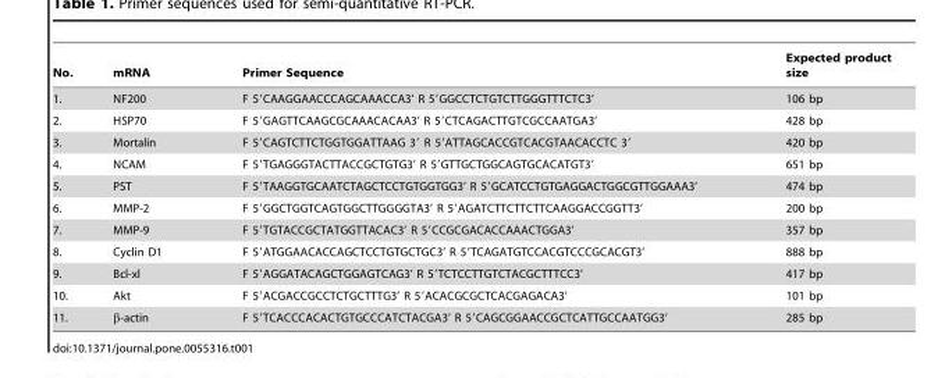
<table><thead><tr><td>No.</td><td>mRNA</td><td>Primer Sequence</td><td>Expected product size</td></tr></thead><tbody><tr><td>1.</td><td>NF200</td><td>F 5′CAAGGAACCCAGCAAACCA3’ R 5′GGCCTCTGTCTTGGGTTTCTC3’</td><td>106 bp</td></tr><tr><td>2.</td><td>HSP70</td><td>F 5′GAGTTCAAGCGCAAACACAA3’ R 5′CTCAGACTTGTCGCCAATGA3’</td><td>428 bp</td></tr><tr><td>3.</td><td>Mortalin</td><td>F 5′CAGTCTTCTGGTGGATTAAG 3′ R 5′ATTAGCACCGTCACGTAACACCTC 3′</td><td>420 bp</td></tr><tr><td>4.</td><td>NCAM</td><td>F 5′TGAGGGTACTTACCGCTGTG3’ R 5′GTTGCTGGCAGTGCACATGT3’</td><td>651 bp</td></tr><tr><td>5.</td><td>PST</td><td>F 5′TAAGGTGCAATCTAGCTCCTGTGGTGG3’ R 5′GCATCCTGTGAGGACTGGCGTTGGAAA3’</td><td>474 bp</td></tr><tr><td>6.</td><td>MMP-2</td><td>F 5′GGCTGGTCAGTGGCTTGGGGTA3’ R 5′AGATCTTCTTCTTCAAGGACCGGTT3’</td><td>200 bp</td></tr><tr><td>7.</td><td>MMP-9</td><td>F 5′TGTACCGCTATGGTTACAC3’ R 5′CCGCGACACCAAACTGGA3’</td><td>357 bp</td></tr><tr><td>8.</td><td>Cyclin D1</td><td>F 5′ATGGAACACCAGCTCCTGTGCTGC3’ R 5′TCAGATGTCCACGTCCCGCACGT3’</td><td>888 bp</td></tr><tr><td>9.</td><td>Bcl-xl</td><td>F 5′AGGATACAGCTGGAGTCAG3’ R 5′TCTCCTTGTCTACGCTTTCC3’</td><td>417 bp</td></tr><tr><td>10.</td><td>Akt</td><td>F 5′ACGACCGCCTCTGCTTTG3’ R 5′ACACGCGCTCACGAGACA3’</td><td>101 bp</td></tr><tr><td>11.</td><td>β-actin</td><td>F 5′TCACCCACACTGTGCCCATCTACGA3’ R 5′CAGCGGAACCGCTCATTGCCAATGG3’</td><td>285 bp</td></tr></tbody></table>